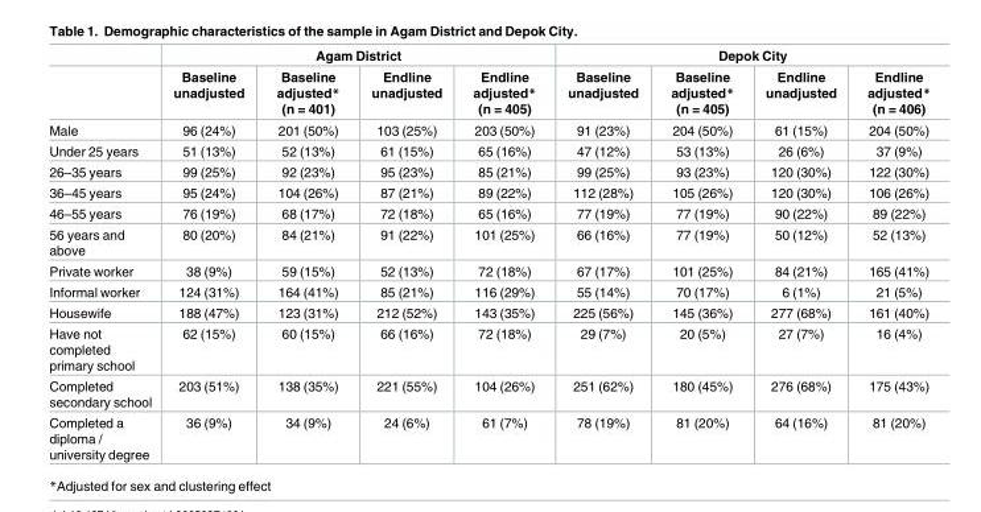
<table><thead><tr><td rowspan="2"></td><td colspan="4">Agam District</td><td colspan="4">Depok City</td></tr><tr><td>Baseline unadjusted</td><td>Baseline adjusted* (n = 401)</td><td>Endline unadjusted</td><td>Endline adjusted* (n = 405)</td><td>Baseline unadjusted</td><td>Baseline adjusted* (n = 405)</td><td>Endline unadjusted</td><td>Endline adjusted* (n = 406)</td></tr></thead><tbody><tr><td>Male</td><td>96 (24%)</td><td>201 (50%)</td><td>103 (25%)</td><td>203 (50%)</td><td>91 (23%)</td><td>204 (50%)</td><td>61 (15%)</td><td>204 (50%)</td></tr><tr><td>Under 25 years</td><td>51 (13%)</td><td>52 (13%)</td><td>61 (15%)</td><td>65 (16%)</td><td>47 (12%)</td><td>53 (13%)</td><td>26 (6%)</td><td>37 (9%)</td></tr><tr><td>26–35 years</td><td>99 (25%)</td><td>92 (23%)</td><td>95 (23%)</td><td>85 (21%)</td><td>99 (25%)</td><td>93 (23%)</td><td>120 (30%)</td><td>122 (30%)</td></tr><tr><td>36–45 years</td><td>95 (24%)</td><td>104 (26%)</td><td>87 (21%)</td><td>89 (22%)</td><td>112 (28%)</td><td>105 (26%)</td><td>120 (30%)</td><td>106 (26%)</td></tr><tr><td>46–55 years</td><td>76 (19%)</td><td>68 (17%)</td><td>72 (18%)</td><td>65 (16%)</td><td>77 (19%)</td><td>77 (19%)</td><td>90 (22%)</td><td>89 (22%)</td></tr><tr><td>56 years and above</td><td>80 (20%)</td><td>84 (21%)</td><td>91 (22%)</td><td>101 (25%)</td><td>66 (16%)</td><td>77 (19%)</td><td>50 (12%)</td><td>52 (13%)</td></tr><tr><td>Private worker</td><td>38 (9%)</td><td>59 (15%)</td><td>52 (13%)</td><td>72 (18%)</td><td>67 (17%)</td><td>101 (25%)</td><td>84 (21%)</td><td>165 (41%)</td></tr><tr><td>Informal worker</td><td>124 (31%)</td><td>164 (41%)</td><td>85 (21%)</td><td>116 (29%)</td><td>55 (14%)</td><td>70 (17%)</td><td>6 (1%)</td><td>21 (5%)</td></tr><tr><td>Housewife</td><td>188 (47%)</td><td>123 (31%)</td><td>212 (52%)</td><td>143 (35%)</td><td>225 (56%)</td><td>145 (36%)</td><td>277 (68%)</td><td>161 (40%)</td></tr><tr><td>Have not completed primary school</td><td>62 (15%)</td><td>60 (15%)</td><td>66 (16%)</td><td>72 (18%)</td><td>29 (7%)</td><td>20 (5%)</td><td>27 (7%)</td><td>16 (4%)</td></tr><tr><td>Completed secondary school</td><td>203 (51%)</td><td>138 (35%)</td><td>221 (55%)</td><td>104 (26%)</td><td>251 (62%)</td><td>180 (45%)</td><td>276 (68%)</td><td>175 (43%)</td></tr><tr><td>Completed a diploma / university degree</td><td>36 (9%)</td><td>34 (9%)</td><td>24 (6%)</td><td>61 (7%)</td><td>78 (19%)</td><td>81 (20%)</td><td>64 (16%)</td><td>81 (20%)</td></tr></tbody></table>